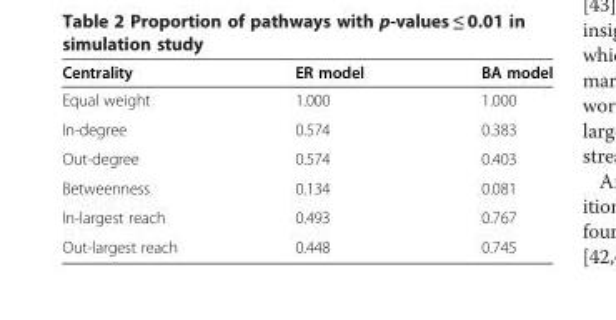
<table><thead><tr><td>Centrality</td><td>ER model</td><td>BA model</td></tr></thead><tbody><tr><td>Equal weight</td><td>1.000</td><td>1.000</td></tr><tr><td>In-degree</td><td>0.574</td><td>0.383</td></tr><tr><td>Out-degree</td><td>0.574</td><td>0.403</td></tr><tr><td>Betweenness</td><td>0.134</td><td>0.081</td></tr><tr><td>In-largest reach</td><td>0.493</td><td>0.767</td></tr><tr><td>Out-largest reach</td><td>0.448</td><td>0.745</td></tr></tbody></table>